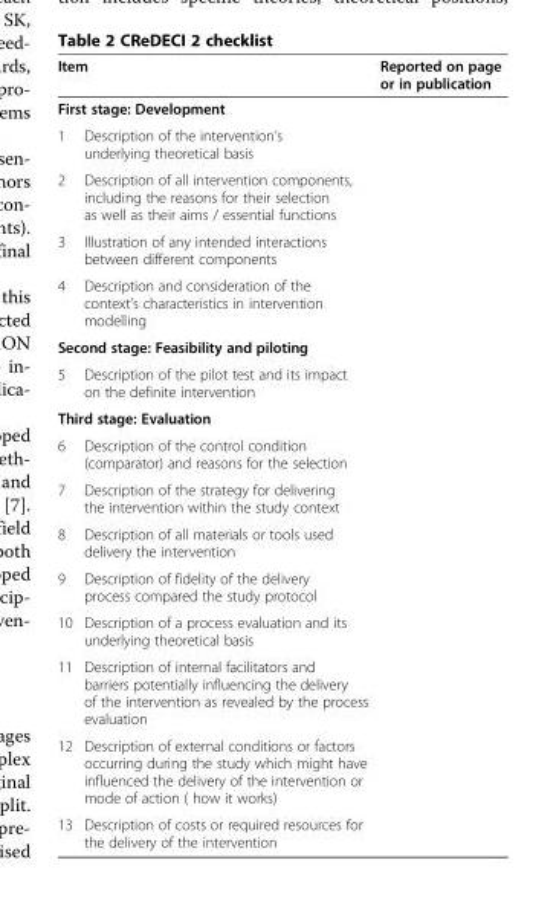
<table><thead><tr><td colspan="2">Item</td><td>Reported on page or in publication</td></tr><tr><td colspan="3">First stage: Development</td></tr><tr><td>1</td><td>Description of the intervention’s underlying theoretical basis</td><td></td></tr></thead><tbody><tr><td>2</td><td>Description of all intervention components, including the reasons for their selection as well as their aims / essential functions</td><td></td></tr><tr><td>3</td><td>Illustration of any intended interactions between different components</td><td></td></tr><tr><td>4</td><td>Description and consideration of the context’s characteristics in intervention modelling</td><td></td></tr><tr><td colspan="3">Second stage: Feasibility and piloting</td></tr><tr><td>5</td><td>Description of the pilot test and its impact on the definite intervention</td><td></td></tr><tr><td colspan="3">Third stage: Evaluation</td></tr><tr><td>6</td><td>Description of the control condition (comparator) and reasons for the selection</td><td></td></tr><tr><td>7</td><td>Description of the strategy for delivering the intervention within the study context</td><td></td></tr><tr><td>8</td><td>Description of all materials or tools used delivery the intervention</td><td></td></tr><tr><td>9</td><td>Description of fidelity of the delivery process compared the study protocol</td><td></td></tr><tr><td>10</td><td>Description of a process evaluation and its underlying theoretical basis</td><td></td></tr><tr><td>11</td><td>Description of internal facilitators and barriers potentially influencing the delivery of the intervention as revealed by the process evaluation</td><td></td></tr><tr><td>12</td><td>Description of external conditions or factors occurring during the study which might have influenced the delivery of the intervention or mode of action ( how it works)</td><td></td></tr><tr><td>13</td><td>Description of costs or required resources for the delivery of the intervention</td><td></td></tr></tbody></table>